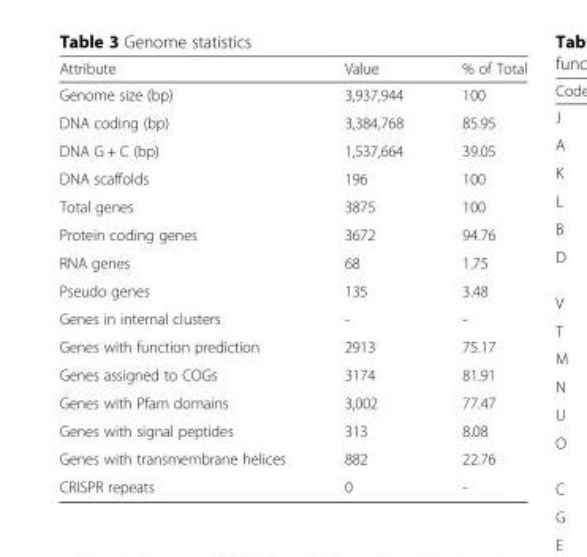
<table><thead><tr><td>Attribute</td><td>Value</td><td>% of Total</td></tr></thead><tbody><tr><td>Genome size (bp)</td><td>3,937,944</td><td>100</td></tr><tr><td>DNA coding (bp)</td><td>3,384,768</td><td>85.95</td></tr><tr><td>DNA G + C (bp)</td><td>1,537,664</td><td>39.05</td></tr><tr><td>DNA scaffolds</td><td>196</td><td>100</td></tr><tr><td>Total genes</td><td>3875</td><td>100</td></tr><tr><td>Protein coding genes</td><td>3672</td><td>94.76</td></tr><tr><td>RNA genes</td><td>68</td><td>1.75</td></tr><tr><td>Pseudo genes</td><td>135</td><td>3.48</td></tr><tr><td>Genes in internal clusters</td><td>-</td><td>-</td></tr><tr><td>Genes with function prediction</td><td>2913</td><td>75.17</td></tr><tr><td>Genes assigned to COGs</td><td>3174</td><td>81.91</td></tr><tr><td>Genes with Pfam domains</td><td>3,002</td><td>77.47</td></tr><tr><td>Genes with signal peptides</td><td>313</td><td>8.08</td></tr><tr><td>Genes with transmembrane helices</td><td>882</td><td>22.76</td></tr><tr><td>CRISPR repeats</td><td>0</td><td>-</td></tr></tbody></table>